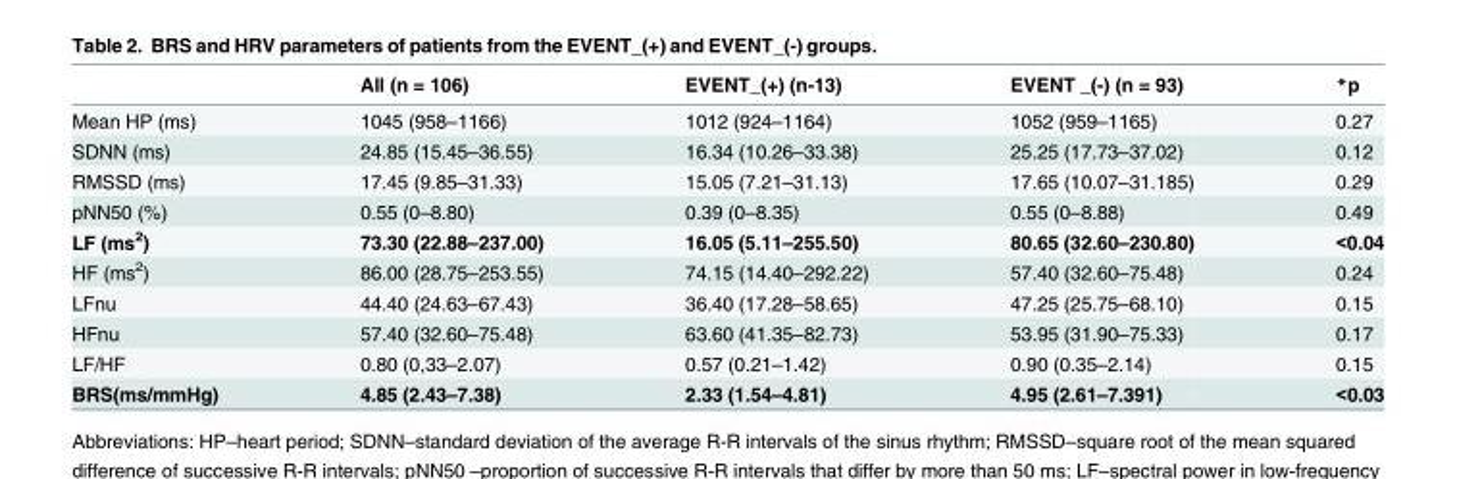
<table><thead><tr><td></td><td>All (n = 106)</td><td>EVENT_(+) (n-13)</td><td>EVENT _(-) (n = 93)</td><td>*p</td></tr></thead><tbody><tr><td>Mean HP (ms)</td><td>1045 (958–1166)</td><td>1012 (924–1164)</td><td>1052 (959–1165)</td><td>0.27</td></tr><tr><td>SDNN (ms)</td><td>24.85 (15.45–36.55)</td><td>16.34 (10.26–33.38)</td><td>25.25 (17.73–37.02)</td><td>0.12</td></tr><tr><td>RMSSD (ms)</td><td>17.45 (9.85–31.33)</td><td>15.05 (7.21–31.13)</td><td>17.65 (10.07–31.185)</td><td>0.29</td></tr><tr><td>pNN50 (%)</td><td>0.55 (0–8.80)</td><td>0.39 (0–8.35)</td><td>0.55 (0–8.88)</td><td>0.49</td></tr><tr><td>LF (ms<sup>2</sup>)</td><td>73.30 (22.88–237.00)</td><td>16.05 (5.11–255.50)</td><td>80.65 (32.60–230.80)</td><td>&lt;0.04</td></tr><tr><td>HF (ms<sup>2</sup>)</td><td>86.00 (28.75–253.55)</td><td>74.15 (14.40–292.22)</td><td>57.40 (32.60–75.48)</td><td>0.24</td></tr><tr><td>LFnu</td><td>44.40 (24.63–67.43)</td><td>36.40 (17.28–58.65)</td><td>47.25 (25.75–68.10)</td><td>0.15</td></tr><tr><td>HFnu</td><td>57.40 (32.60–75.48)</td><td>63.60 (41.35–82.73)</td><td>53.95 (31.90–75.33)</td><td>0.17</td></tr><tr><td>LF/HF</td><td>0.80 (0,33–2.07)</td><td>0.57 (0.21–1.42)</td><td>0.90 (0.35–2.14)</td><td>0.15</td></tr><tr><td>BRS(ms/mmHg)</td><td>4.85 (2.43–7.38)</td><td>2.33 (1.54–4.81)</td><td>4.95 (2.61–7.391)</td><td>&lt;0.03</td></tr></tbody></table>